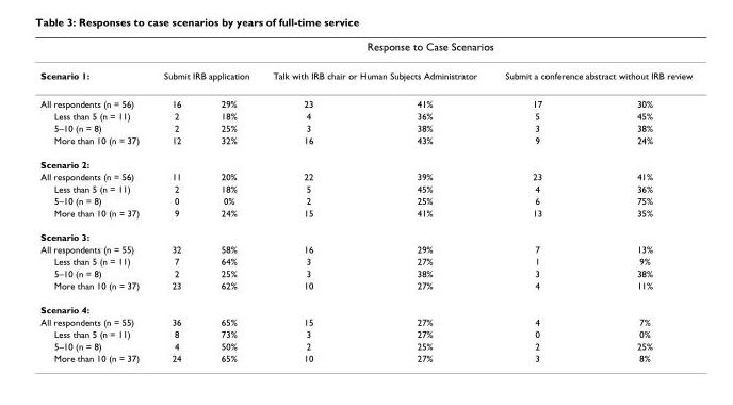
<table><thead><tr><td rowspan="3">Scenario 1: All respondents (n = 56)</td><td colspan="6">Response to Case Scenarios</td></tr><tr><td colspan="2">Submit IRB application</td><td colspan="2">Talk with IRB chair or Human Subjects Administrator</td><td colspan="2">Submit a conference abstract without IRB review</td></tr><tr><td>16</td><td>29%</td><td>23</td><td>41%</td><td>17</td><td>30%</td></tr></thead><tbody><tr><td>Less than 5 (n = 11)</td><td>2</td><td>18%</td><td>4</td><td>36%</td><td>5</td><td>45%</td></tr><tr><td>5–10 (n = 8)</td><td>2</td><td>25%</td><td>3</td><td>38%</td><td>3</td><td>38%</td></tr><tr><td>More than 10 (n = 37)</td><td>12</td><td>32%</td><td>16</td><td>43%</td><td>9</td><td>24%</td></tr><tr><td colspan="7">Scenario 2:</td></tr><tr><td>All respondents (n = 56)</td><td>11</td><td>20%</td><td>22</td><td>39%</td><td>23</td><td>41%</td></tr><tr><td>Less than 5 (n = 11)</td><td>2</td><td>18%</td><td>5</td><td>45%</td><td>4</td><td>36%</td></tr><tr><td>5–10 (n = 8)</td><td>0</td><td>0%</td><td>2</td><td>25%</td><td>6</td><td>75%</td></tr><tr><td>More than 10 (n = 37)</td><td>9</td><td>24%</td><td>15</td><td>41%</td><td>13</td><td>35%</td></tr><tr><td colspan="7">Scenario 3:</td></tr><tr><td>All respondents (n = 55)</td><td>32</td><td>58%</td><td>16</td><td>29%</td><td>7</td><td>13%</td></tr><tr><td>Less than 5 (n = 11)</td><td>7</td><td>64%</td><td>3</td><td>27%</td><td>1</td><td>9%</td></tr><tr><td>5–10 (n = 8)</td><td>2</td><td>25%</td><td>3</td><td>38%</td><td>3</td><td>38%</td></tr><tr><td>More than 10 (n = 37)</td><td>23</td><td>62%</td><td>10</td><td>27%</td><td>4</td><td>11%</td></tr><tr><td colspan="7">Scenario 4:</td></tr><tr><td>All respondents (n = 55)</td><td>36</td><td>65%</td><td>15</td><td>27%</td><td>4</td><td>7%</td></tr><tr><td>Less than 5 (n = 11)</td><td>8</td><td>73%</td><td>3</td><td>27%</td><td>0</td><td>0%</td></tr><tr><td>5–10 (n = 8)</td><td>4</td><td>50%</td><td>2</td><td>25%</td><td>2</td><td>25%</td></tr><tr><td>More than 10 (n = 37)</td><td>24</td><td>65%</td><td>10</td><td>27%</td><td>3</td><td>8%</td></tr></tbody></table>